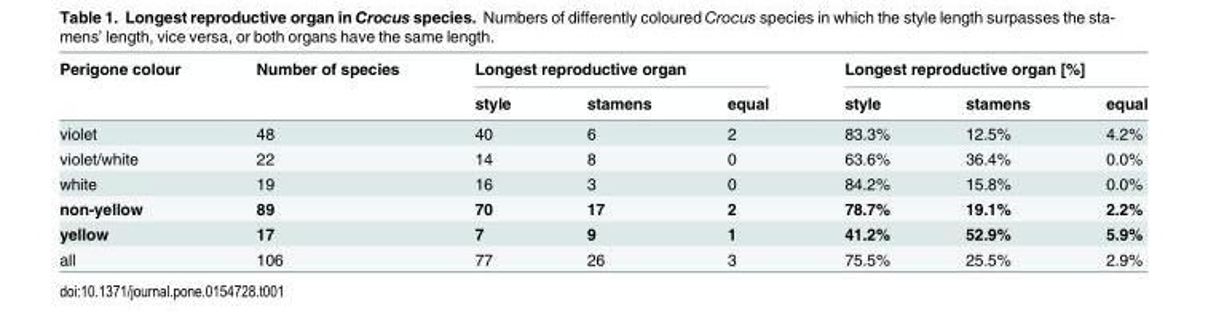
<table><thead><tr><td rowspan="2">Perigone colour</td><td rowspan="2">Number of species</td><td colspan="3">Longest reproductive organ</td><td colspan="3">Longest reproductive organ [%]</td></tr><tr><td>style</td><td>stamens</td><td>equal</td><td>style</td><td>stamens</td><td>equal</td></tr></thead><tbody><tr><td>violet</td><td>48</td><td>40</td><td>6</td><td>2</td><td>83.3%</td><td>12.5%</td><td>4.2%</td></tr><tr><td>violet/white</td><td>22</td><td>14</td><td>8</td><td>0</td><td>63.6%</td><td>36.4%</td><td>0.0%</td></tr><tr><td>white</td><td>19</td><td>16</td><td>3</td><td>0</td><td>84.2%</td><td>15.8%</td><td>0.0%</td></tr><tr><td>non-yellow</td><td>89</td><td>70</td><td>17</td><td>2</td><td>78.7%</td><td>19.1%</td><td>2.2%</td></tr><tr><td>yellow</td><td>17</td><td>7</td><td>9</td><td>1</td><td>41.2%</td><td>52.9%</td><td>5.9%</td></tr><tr><td>all</td><td>106</td><td>77</td><td>26</td><td>3</td><td>75.5%</td><td>25.5%</td><td>2.9%</td></tr></tbody></table>